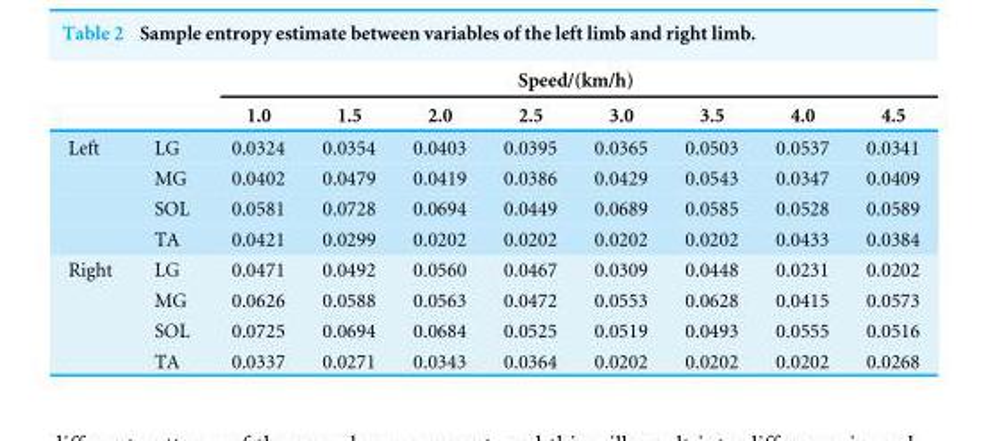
<table><thead><tr><td rowspan="2"></td><td rowspan="2"></td><td colspan="8">Speed/(km/h)</td></tr><tr><td>1.0</td><td>1.5</td><td>2.0</td><td>2.5</td><td>3.0</td><td>3.5</td><td>4.0</td><td>4.5</td></tr></thead><tbody><tr><td rowspan="4">Left</td><td>LG</td><td>0.0324</td><td>0.0354</td><td>0.0403</td><td>0.0395</td><td>0.0365</td><td>0.0503</td><td>0.0537</td><td>0.0341</td></tr><tr><td>MG</td><td>0.0402</td><td>0.0479</td><td>0.0419</td><td>0.0386</td><td>0.0429</td><td>0.0543</td><td>0.0347</td><td>0.0409</td></tr><tr><td>SOL</td><td>0.0581</td><td>0.0728</td><td>0.0694</td><td>0.0449</td><td>0.0689</td><td>0.0585</td><td>0.0528</td><td>0.0589</td></tr><tr><td>TA</td><td>0.0421</td><td>0.0299</td><td>0.0202</td><td>0.0202</td><td>0.0202</td><td>0.0202</td><td>0.0433</td><td>0.0384</td></tr><tr><td rowspan="4">Right</td><td>LG</td><td>0.0471</td><td>0.0492</td><td>0.0560</td><td>0.0467</td><td>0.0309</td><td>0.0448</td><td>0.0231</td><td>0.0202</td></tr><tr><td>MG</td><td>0.0626</td><td>0.0588</td><td>0.0563</td><td>0.0472</td><td>0.0553</td><td>0.0628</td><td>0.0415</td><td>0.0573</td></tr><tr><td>SOL</td><td>0.0725</td><td>0.0694</td><td>0.0684</td><td>0.0525</td><td>0.0519</td><td>0.0493</td><td>0.0555</td><td>0.0516</td></tr><tr><td>TA</td><td>0.0337</td><td>0.0271</td><td>0.0343</td><td>0.0364</td><td>0.0202</td><td>0.0202</td><td>0.0202</td><td>0.0268</td></tr></tbody></table>